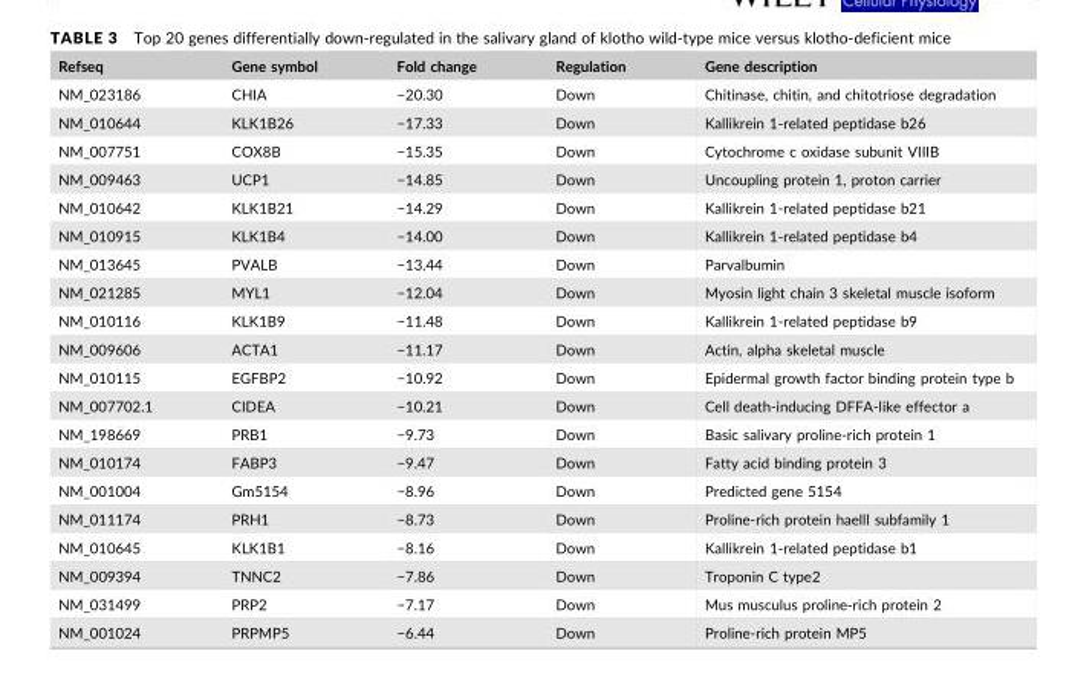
<table><thead><tr><td>Refseq</td><td>Gene symbol</td><td>Fold change</td><td>Regulation</td><td>Gene description</td></tr></thead><tbody><tr><td>NM_023186</td><td>CHIA</td><td>−20.30</td><td>Down</td><td>Chitinase, chitin, and chitotriose degradation</td></tr><tr><td>NM_010644</td><td>KLK1B26</td><td>−17.33</td><td>Down</td><td>Kallikrein 1-related peptidase b26</td></tr><tr><td>NM_007751</td><td>COX8B</td><td>−15.35</td><td>Down</td><td>Cytochrome c oxidase subunit VIIIB</td></tr><tr><td>NM_009463</td><td>UCP1</td><td>−14.85</td><td>Down</td><td>Uncoupling protein 1, proton carrier</td></tr><tr><td>NM_010642</td><td>KLK1B21</td><td>−14.29</td><td>Down</td><td>Kallikrein 1-related peptidase b21</td></tr><tr><td>NM_010915</td><td>KLK1B4</td><td>−14.00</td><td>Down</td><td>Kallikrein 1-related peptidase b4</td></tr><tr><td>NM_013645</td><td>PVALB</td><td>−13.44</td><td>Down</td><td>Parvalbumin</td></tr><tr><td>NM_021285</td><td>MYL1</td><td>−12.04</td><td>Down</td><td>Myosin light chain 3 skeletal muscle isoform</td></tr><tr><td>NM_010116</td><td>KLK1B9</td><td>−11.48</td><td>Down</td><td>Kallikrein 1-related peptidase b9</td></tr><tr><td>NM_009606</td><td>ACTA1</td><td>−11.17</td><td>Down</td><td>Actin, alpha skeletal muscle</td></tr><tr><td>NM_010115</td><td>EGFBP2</td><td>−10.92</td><td>Down</td><td>Epidermal growth factor binding protein type b</td></tr><tr><td>NM_007702.1</td><td>CIDEA</td><td>−10.21</td><td>Down</td><td>Cell death-inducing DFFA-like effector a</td></tr><tr><td>NM_198669</td><td>PRB1</td><td>−9.73</td><td>Down</td><td>Basic salivary proline-rich protein 1</td></tr><tr><td>NM_010174</td><td>FABP3</td><td>−9.47</td><td>Down</td><td>Fatty acid binding protein 3</td></tr><tr><td>NM_001004</td><td>Gm5154</td><td>−8.96</td><td>Down</td><td>Predicted gene 5154</td></tr><tr><td>NM_011174</td><td>PRH1</td><td>−8.73</td><td>Down</td><td>Proline-rich protein haelll subfamily 1</td></tr><tr><td>NM_010645</td><td>KLK1B1</td><td>−8.16</td><td>Down</td><td>Kallikrein 1-related peptidase b1</td></tr><tr><td>NM_009394</td><td>TNNC2</td><td>−7.86</td><td>Down</td><td>Troponin C type2</td></tr><tr><td>NM_031499</td><td>PRP2</td><td>−7.17</td><td>Down</td><td>Mus musculus proline-rich protein 2</td></tr><tr><td>NM_001024</td><td>PRPMP5</td><td>−6.44</td><td>Down</td><td>Proline-rich protein MP5</td></tr></tbody></table>